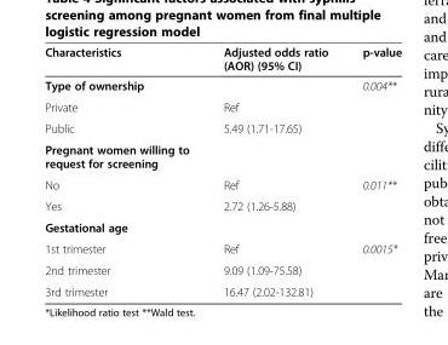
<table><thead><tr><td>Characteristics</td><td>Adjusted odds ratio (AOR) (95% CI)</td><td>p-value</td></tr></thead><tbody><tr><td>Type of ownership</td><td></td><td>0.004**</td></tr><tr><td>Private</td><td>Ref</td><td></td></tr><tr><td>Public</td><td>5.49 (1.71-17.65)</td><td></td></tr><tr><td colspan="3">Pregnant women willing to request for screening</td></tr><tr><td>No</td><td>Ref</td><td>0.011**</td></tr><tr><td>Yes</td><td>2.72 (1.26-5.88)</td><td></td></tr><tr><td colspan="3">Gestational age</td></tr><tr><td>1st trimester</td><td>Ref</td><td>0.0015*</td></tr><tr><td>2nd trimester</td><td>9.09 (1.09-75.58)</td><td></td></tr><tr><td>3rd trimester</td><td>16.47 (2.02-132.81)</td><td></td></tr></tbody></table>